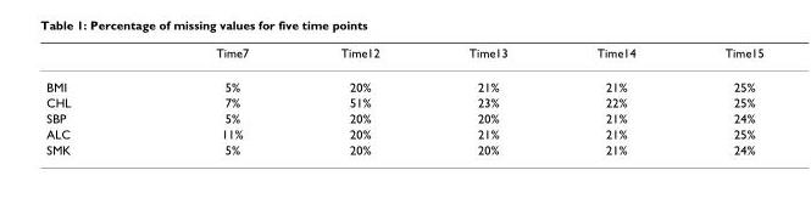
<table><thead><tr><td></td><td>Time7</td><td>Time12</td><td>Time13</td><td>Time14</td><td>Time15</td></tr></thead><tbody><tr><td>BMI</td><td>5%</td><td>20%</td><td>21%</td><td>21%</td><td>25%</td></tr><tr><td>CHL</td><td>7%</td><td>51%</td><td>23%</td><td>22%</td><td>25%</td></tr><tr><td>SBP</td><td>5%</td><td>20%</td><td>20%</td><td>21%</td><td>24%</td></tr><tr><td>ALC</td><td>11%</td><td>20%</td><td>21%</td><td>21%</td><td>25%</td></tr><tr><td>SMK</td><td>5%</td><td>20%</td><td>20%</td><td>21%</td><td>24%</td></tr></tbody></table>